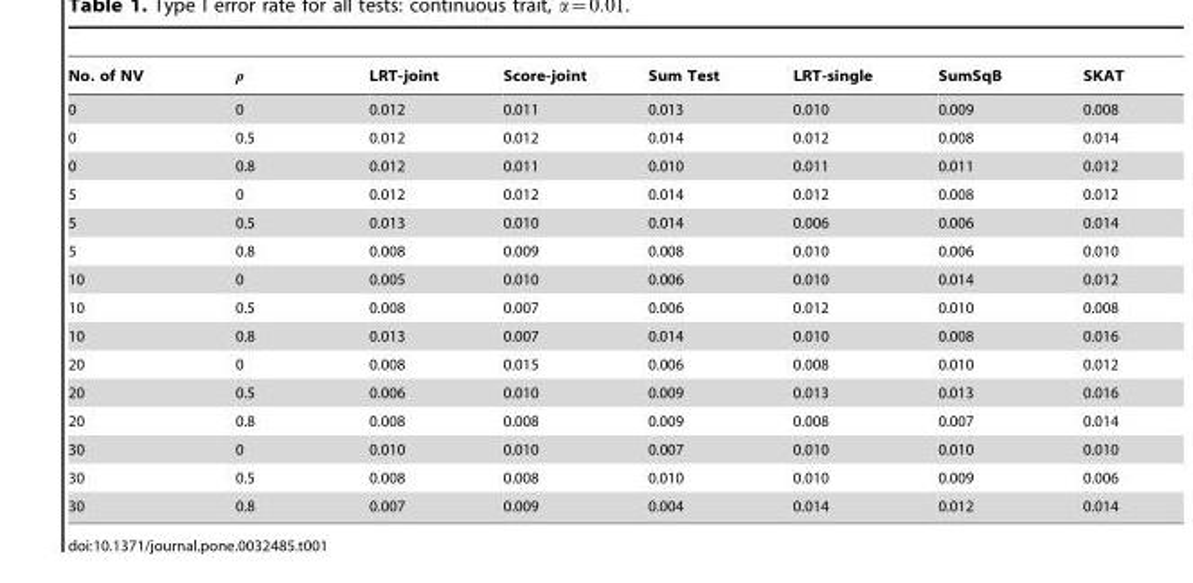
<table><thead><tr><td>No. of NV</td><td>r</td><td>LRT-joint</td><td>Score-joint</td><td>Sum Test</td><td>LRT-single</td><td>SumSqB</td><td>SKAT</td></tr></thead><tbody><tr><td>0</td><td>0</td><td>0.012</td><td>0.011</td><td>0.013</td><td>0.010</td><td>0.009</td><td>0.008</td></tr><tr><td>0</td><td>0.5</td><td>0.012</td><td>0.012</td><td>0.014</td><td>0.012</td><td>0.008</td><td>0.014</td></tr><tr><td>0</td><td>0.8</td><td>0.012</td><td>0.011</td><td>0.010</td><td>0.011</td><td>0.011</td><td>0.012</td></tr><tr><td>5</td><td>0</td><td>0.012</td><td>0.012</td><td>0.014</td><td>0.012</td><td>0.008</td><td>0.012</td></tr><tr><td>5</td><td>0.5</td><td>0.013</td><td>0.010</td><td>0.014</td><td>0.006</td><td>0.006</td><td>0.014</td></tr><tr><td>5</td><td>0.8</td><td>0.008</td><td>0.009</td><td>0.008</td><td>0.010</td><td>0.006</td><td>0.010</td></tr><tr><td>10</td><td>0</td><td>0.005</td><td>0.010</td><td>0.006</td><td>0.010</td><td>0.014</td><td>0.012</td></tr><tr><td>10</td><td>0.5</td><td>0.008</td><td>0.007</td><td>0.006</td><td>0.012</td><td>0.010</td><td>0.008</td></tr><tr><td>10</td><td>0.8</td><td>0.013</td><td>0.007</td><td>0.014</td><td>0.010</td><td>0.008</td><td>0.016</td></tr><tr><td>20</td><td>0</td><td>0.008</td><td>0.015</td><td>0.006</td><td>0.008</td><td>0.010</td><td>0.012</td></tr><tr><td>20</td><td>0.5</td><td>0.006</td><td>0.010</td><td>0.009</td><td>0.013</td><td>0.013</td><td>0.016</td></tr><tr><td>20</td><td>0.8</td><td>0.008</td><td>0.008</td><td>0.009</td><td>0.008</td><td>0.007</td><td>0.014</td></tr><tr><td>30</td><td>0</td><td>0.010</td><td>0.010</td><td>0.007</td><td>0.010</td><td>0.010</td><td>0.010</td></tr><tr><td>30</td><td>0.5</td><td>0.008</td><td>0.008</td><td>0.010</td><td>0.010</td><td>0.009</td><td>0.006</td></tr><tr><td>30</td><td>0.8</td><td>0.007</td><td>0.009</td><td>0.004</td><td>0.014</td><td>0.012</td><td>0.014</td></tr></tbody></table>